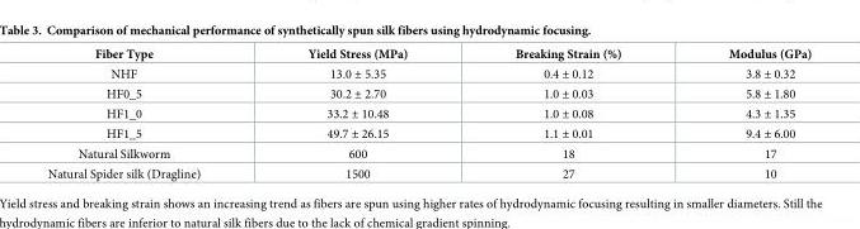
<table><thead><tr><td>Fiber Type</td><td>Yield Stress (MPa)</td><td>Breaking Strain (%)</td><td>Modulus (GPa)</td></tr></thead><tbody><tr><td>NHF</td><td>13.0 ± 5.35</td><td>0.4 ± 0.12</td><td>3.8 ± 0.32</td></tr><tr><td>HF0_5</td><td>30.2 ± 2.70</td><td>1.0 ± 0.03</td><td>5.8 ± 1.80</td></tr><tr><td>HF1_0</td><td>33.2 ± 10.48</td><td>1.0 ± 0.08</td><td>4.3 ± 1.35</td></tr><tr><td>HF1_5</td><td>49.7 ± 26.15</td><td>1.1 ± 0.01</td><td>9.4 ± 6.00</td></tr><tr><td>Natural Silkworm</td><td>600</td><td>18</td><td>17</td></tr><tr><td>Natural Spider silk (Dragline)</td><td>1500</td><td>27</td><td>10</td></tr></tbody></table>